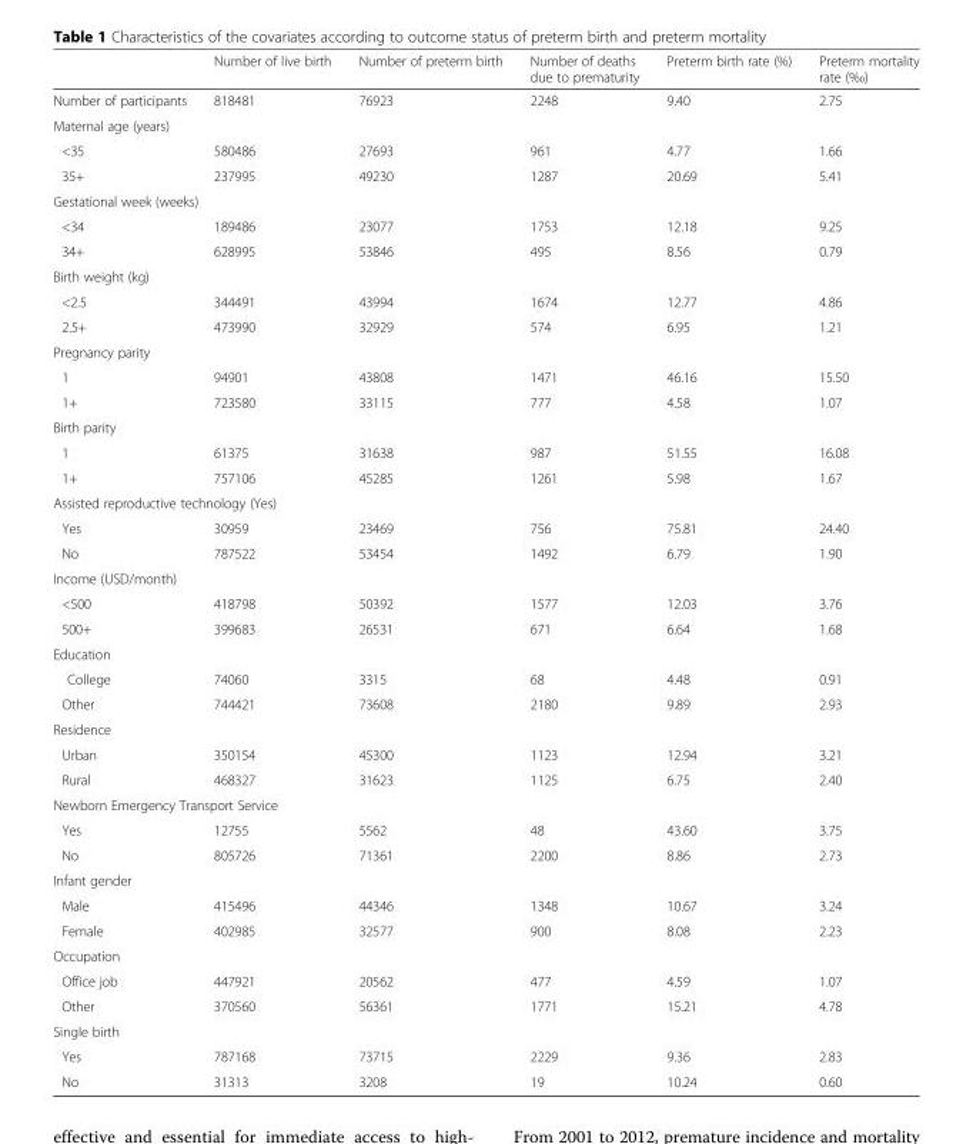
<table><thead><tr><td></td><td>Number of live birth</td><td>Number of preterm birth</td><td>Number of deaths due to prematurity</td><td>Preterm birth rate (%)</td><td>Preterm mortality rate (‰)</td></tr></thead><tbody><tr><td>Number of participants</td><td>818481</td><td>76923</td><td>2248</td><td>9.40</td><td>2.75</td></tr><tr><td colspan="6">Maternal age (years)</td></tr><tr><td>&lt;35</td><td>580486</td><td>27693</td><td>961</td><td>4.77</td><td>1.66</td></tr><tr><td>35+</td><td>237995</td><td>49230</td><td>1287</td><td>20.69</td><td>5.41</td></tr><tr><td colspan="6">Gestational week (weeks)</td></tr><tr><td>&lt;34</td><td>189486</td><td>23077</td><td>1753</td><td>12.18</td><td>9.25</td></tr><tr><td>34+</td><td>628995</td><td>53846</td><td>495</td><td>8.56</td><td>0.79</td></tr><tr><td colspan="6">Birth weight (kg)</td></tr><tr><td>&lt;2.5</td><td>344491</td><td>43994</td><td>1674</td><td>12.77</td><td>4.86</td></tr><tr><td>2.5+</td><td>473990</td><td>32929</td><td>574</td><td>6.95</td><td>1.21</td></tr><tr><td colspan="6">Pregnancy parity</td></tr><tr><td>1</td><td>94901</td><td>43808</td><td>1471</td><td>46.16</td><td>15.50</td></tr><tr><td>1+</td><td>723580</td><td>33115</td><td>777</td><td>4.58</td><td>1.07</td></tr><tr><td colspan="6">Birth parity</td></tr><tr><td>1</td><td>61375</td><td>31638</td><td>987</td><td>51.55</td><td>16.08</td></tr><tr><td>1+</td><td>757106</td><td>45285</td><td>1261</td><td>5.98</td><td>1.67</td></tr><tr><td colspan="6">Assisted reproductive technology (Yes)</td></tr><tr><td>Yes</td><td>30959</td><td>23469</td><td>756</td><td>75.81</td><td>24.40</td></tr><tr><td>No</td><td>787522</td><td>53454</td><td>1492</td><td>6.79</td><td>1.90</td></tr><tr><td colspan="6">Income (USD/month)</td></tr><tr><td>&lt;500</td><td>418798</td><td>50392</td><td>1577</td><td>12.03</td><td>3.76</td></tr><tr><td>500+</td><td>399683</td><td>26531</td><td>671</td><td>6.64</td><td>1.68</td></tr><tr><td colspan="6">Education</td></tr><tr><td>College</td><td>74060</td><td>3315</td><td>68</td><td>4.48</td><td>0.91</td></tr><tr><td>Other</td><td>744421</td><td>73608</td><td>2180</td><td>9.89</td><td>2.93</td></tr><tr><td colspan="6">Residence</td></tr><tr><td>Urban</td><td>350154</td><td>45300</td><td>1123</td><td>12.94</td><td>3.21</td></tr><tr><td>Rural</td><td>468327</td><td>31623</td><td>1125</td><td>6.75</td><td>2.40</td></tr><tr><td colspan="6">Newborn Emergency Transport Service</td></tr><tr><td>Yes</td><td>12755</td><td>5562</td><td>48</td><td>43.60</td><td>3.75</td></tr><tr><td>No</td><td>805726</td><td>71361</td><td>2200</td><td>8.86</td><td>2.73</td></tr><tr><td colspan="6">Infant gender</td></tr><tr><td>Male</td><td>415496</td><td>44346</td><td>1348</td><td>10.67</td><td>3.24</td></tr><tr><td>Female</td><td>402985</td><td>32577</td><td>900</td><td>8.08</td><td>2.23</td></tr><tr><td colspan="6">Occupation</td></tr><tr><td>Office job</td><td>447921</td><td>20562</td><td>477</td><td>4.59</td><td>1.07</td></tr><tr><td>Other</td><td>370560</td><td>56361</td><td>1771</td><td>15.21</td><td>4.78</td></tr><tr><td colspan="6">Single birth</td></tr><tr><td>Yes</td><td>787168</td><td>73715</td><td>2229</td><td>9.36</td><td>2.83</td></tr><tr><td>No</td><td>31313</td><td>3208</td><td>19</td><td>10.24</td><td>0.60</td></tr></tbody></table>